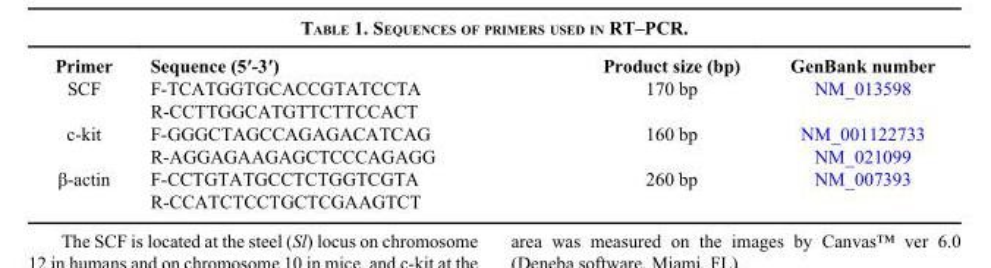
<table><thead><tr><td>Primer</td><td>Sequence (5′-3′)</td><td>Product size (bp)</td><td>GenBank number</td></tr></thead><tbody><tr><td rowspan="2">SCF</td><td>F-TCATGGTGCACCGTATCCTA</td><td>170 bp</td><td>NM_013598</td></tr><tr><td>R-CCTTGGCATGTTCTTCCACT</td><td></td><td></td></tr><tr><td rowspan="2">c-kit</td><td>F-GGGCTAGCCAGAGACATCAG</td><td>160 bp</td><td>NM_001122733</td></tr><tr><td>R-AGGAGAAGAGCTCCCAGAGG</td><td></td><td>NM_021099</td></tr><tr><td rowspan="2">β-actin</td><td>F-CCTGTATGCCTCTGGTCGTA</td><td>260 bp</td><td>NM_007393</td></tr><tr><td>R-CCATCTCCTGCTCGAAGTCT</td><td></td><td></td></tr></tbody></table>